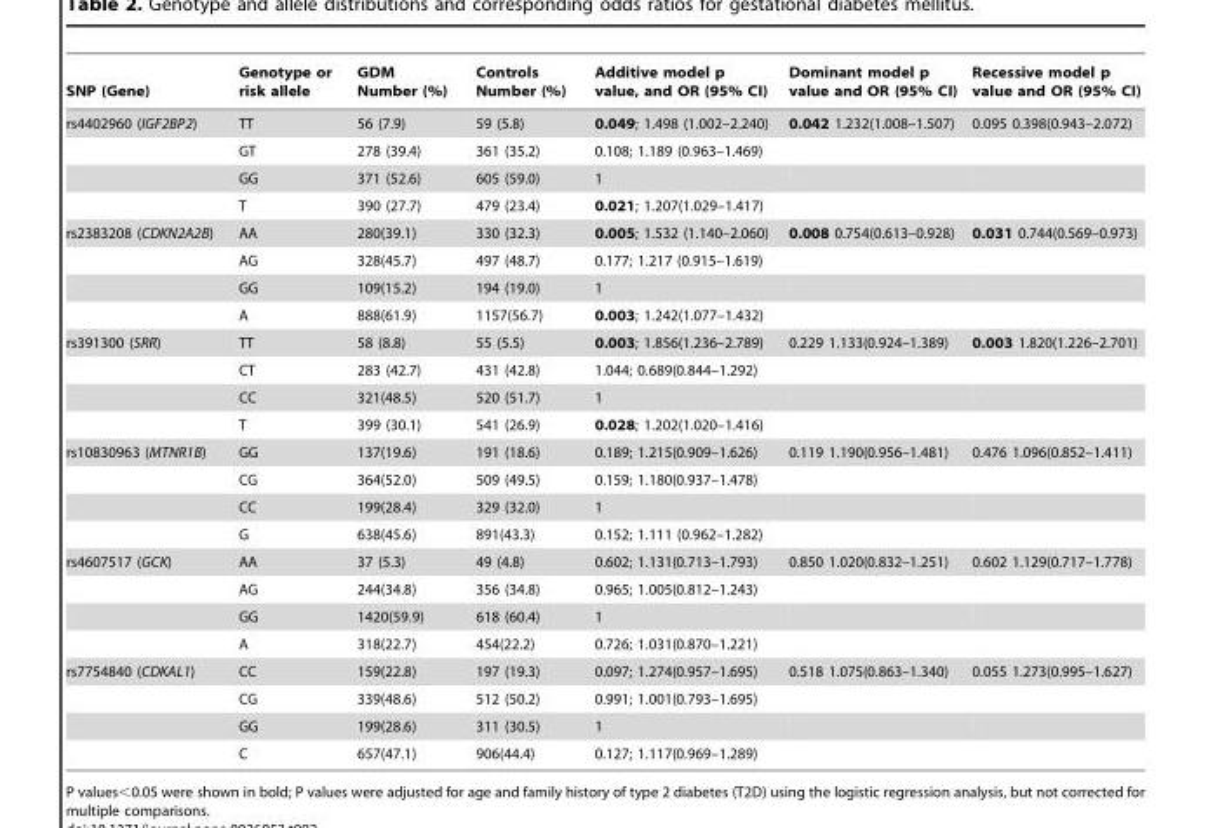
<table><thead><tr><td>SNP (Gene)</td><td>Genotype or risk allele</td><td>GDM Number (%)</td><td>Controls Number (%)</td><td>Additive model p value, and OR (95% CI)</td><td>Dominant model p value and OR (95% CI)</td><td>Recessive model p value and OR (95% CI)</td></tr></thead><tbody><tr><td rowspan="4">rs4402960 (IGF2BP2)</td><td>TT</td><td>56 (7.9)</td><td>59 (5.8)</td><td>0.049; 1.498 (1.002–2.240)</td><td>0.042 1.232(1.008–1.507)</td><td>0.095 0.398(0.943–2.072)</td></tr><tr><td>GT</td><td>278 (39.4)</td><td>361 (35.2)</td><td>0.108; 1.189 (0.963–1.469)</td><td></td><td></td></tr><tr><td>GG</td><td>371 (52.6)</td><td>605 (59.0)</td><td>1</td><td></td><td></td></tr><tr><td>T</td><td>390 (27.7)</td><td>479 (23.4)</td><td>0.021; 1.207(1.029–1.417)</td><td></td><td></td></tr><tr><td rowspan="4">rs2383208 (CDKN2A2B)</td><td>AA</td><td>280(39.1)</td><td>330 (32.3)</td><td>0.005; 1.532 (1.140–2.060)</td><td>0.008 0.754(0.613–0.928)</td><td>0.031 0.744(0.569–0.973)</td></tr><tr><td>AG</td><td>328(45.7)</td><td>497 (48.7)</td><td>0.177; 1.217 (0.915–1.619)</td><td></td><td></td></tr><tr><td>GG</td><td>109(15.2)</td><td>194 (19.0)</td><td>1</td><td></td><td></td></tr><tr><td>A</td><td>888(61.9)</td><td>1157(56.7)</td><td>0.003; 1.242(1.077–1.432)</td><td></td><td></td></tr><tr><td rowspan="4">rs391300 (SRR)</td><td>TT</td><td>58 (8.8)</td><td>55 (5.5)</td><td>0.003; 1.856(1.236–2.789)</td><td>0.229 1.133(0.924–1.389)</td><td>0.003 1.820(1.226–2.701)</td></tr><tr><td>CT</td><td>283 (42.7)</td><td>431 (42.8)</td><td>1.044; 0.689(0.844–1.292)</td><td></td><td></td></tr><tr><td>CC</td><td>321(48.5)</td><td>520 (51.7)</td><td>1</td><td></td><td></td></tr><tr><td>T</td><td>399 (30.1)</td><td>541 (26.9)</td><td>0.028; 1.202(1.020–1.416)</td><td></td><td></td></tr><tr><td rowspan="4">rs10830963 (MTNR1B)</td><td>GG</td><td>137(19.6)</td><td>191 (18.6)</td><td>0.189; 1.215(0.909–1.626)</td><td>0.119 1.190(0.956–1.481)</td><td>0.476 1.096(0.852–1.411)</td></tr><tr><td>CG</td><td>364(52.0)</td><td>509 (49.5)</td><td>0.159; 1.180(0.937–1.478)</td><td></td><td></td></tr><tr><td>CC</td><td>199(28.4)</td><td>329 (32.0)</td><td>1</td><td></td><td></td></tr><tr><td>G</td><td>638(45.6)</td><td>891(43.3)</td><td>0.152; 1.111 (0.962–1.282)</td><td></td><td></td></tr><tr><td rowspan="4">rs4607517 (GCK)</td><td>AA</td><td>37 (5.3)</td><td>49 (4.8)</td><td>0.602; 1.131(0.713–1.793)</td><td>0.850 1.020(0.832–1.251)</td><td>0.602 1.129(0.717–1.778)</td></tr><tr><td>AG</td><td>244(34.8)</td><td>356 (34.8)</td><td>0.965; 1.005(0.812–1.243)</td><td></td><td></td></tr><tr><td>GG</td><td>1420(59.9)</td><td>618 (60.4)</td><td>1</td><td></td><td></td></tr><tr><td>A</td><td>318(22.7)</td><td>454(22.2)</td><td>0.726; 1.031(0.870–1.221)</td><td></td><td></td></tr><tr><td rowspan="4">rs7754840 (CDKAL1)</td><td>CC</td><td>159(22.8)</td><td>197 (19.3)</td><td>0.097; 1.274(0.957–1.695)</td><td>0.518 1.075(0.863–1.340)</td><td>0.055 1.273(0.995–1.627)</td></tr><tr><td>CG</td><td>339(48.6)</td><td>512 (50.2)</td><td>0.991; 1.001(0.793–1.695)</td><td></td><td></td></tr><tr><td>GG</td><td>199(28.6)</td><td>311 (30.5)</td><td>1</td><td></td><td></td></tr><tr><td>C</td><td>657(47.1)</td><td>906(44.4)</td><td>0.127; 1.117(0.969–1.289)</td><td></td><td></td></tr></tbody></table>